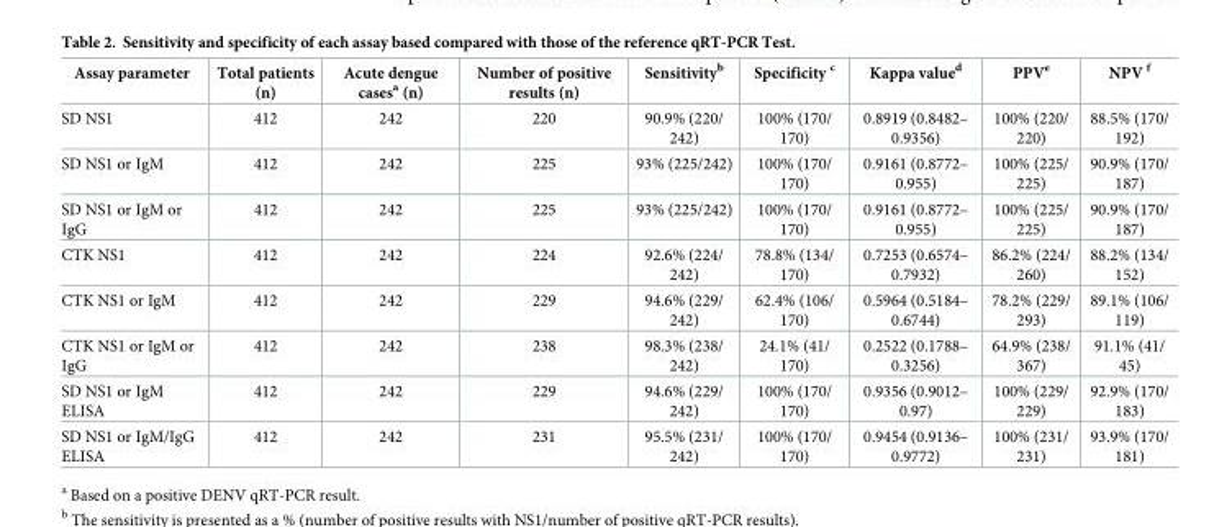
<table><thead><tr><td>Assay parameter</td><td>Total patients (n)</td><td>Acute dengue cases<sup>a</sup> (n)</td><td>Number of positive results (n)</td><td>Sensitivity<sup>b</sup></td><td>Specificity <sup>c</sup></td><td>Kappa value<sup>d</sup></td><td>PPV<sup>e</sup></td><td>NPV <sup>f</sup></td></tr></thead><tbody><tr><td>SD NS1</td><td>412</td><td>242</td><td>220</td><td>90.9% (220/ 242)</td><td>100% (170/ 170)</td><td>0.8919 (0.8482– 0.9356)</td><td>100% (220/ 220)</td><td>88.5% (170/ 192)</td></tr><tr><td>SD NS1 or IgM</td><td>412</td><td>242</td><td>225</td><td>93% (225/242)</td><td>100% (170/ 170)</td><td>0.9161 (0.8772– 0.955)</td><td>100% (225/ 225)</td><td>90.9% (170/ 187)</td></tr><tr><td>SD NS1 or IgM or IgG</td><td>412</td><td>242</td><td>225</td><td>93% (225/242)</td><td>100% (170/ 170)</td><td>0.9161 (0.8772– 0.955)</td><td>100% (225/ 225)</td><td>90.9% (170/ 187)</td></tr><tr><td>CTK NS1</td><td>412</td><td>242</td><td>224</td><td>92.6% (224/ 242)</td><td>78.8% (134/ 170)</td><td>0.7253 (0.6574– 0.7932)</td><td>86.2% (224/ 260)</td><td>88.2% (134/ 152)</td></tr><tr><td>CTK NS1 or IgM</td><td>412</td><td>242</td><td>229</td><td>94.6% (229/ 242)</td><td>62.4% (106/ 170)</td><td>0.5964 (0.5184– 0.6744)</td><td>78.2% (229/ 293)</td><td>89.1% (106/ 119)</td></tr><tr><td>CTK NS1 or IgM or IgG</td><td>412</td><td>242</td><td>238</td><td>98.3% (238/ 242)</td><td>24.1% (41/ 170)</td><td>0.2522 (0.1788– 0.3256)</td><td>64.9% (238/ 367)</td><td>91.1% (41/ 45)</td></tr><tr><td>SD NS1 or IgM ELISA</td><td>412</td><td>242</td><td>229</td><td>94.6% (229/ 242)</td><td>100% (170/ 170)</td><td>0.9356 (0.9012– 0.97)</td><td>100% (229/ 229)</td><td>92.9% (170/ 183)</td></tr><tr><td>SD NS1 or IgM/IgG ELISA</td><td>412</td><td>242</td><td>231</td><td>95.5% (231/ 242)</td><td>100% (170/ 170)</td><td>0.9454 (0.9136– 0.9772)</td><td>100% (231/ 231)</td><td>93.9% (170/ 181)</td></tr></tbody></table>